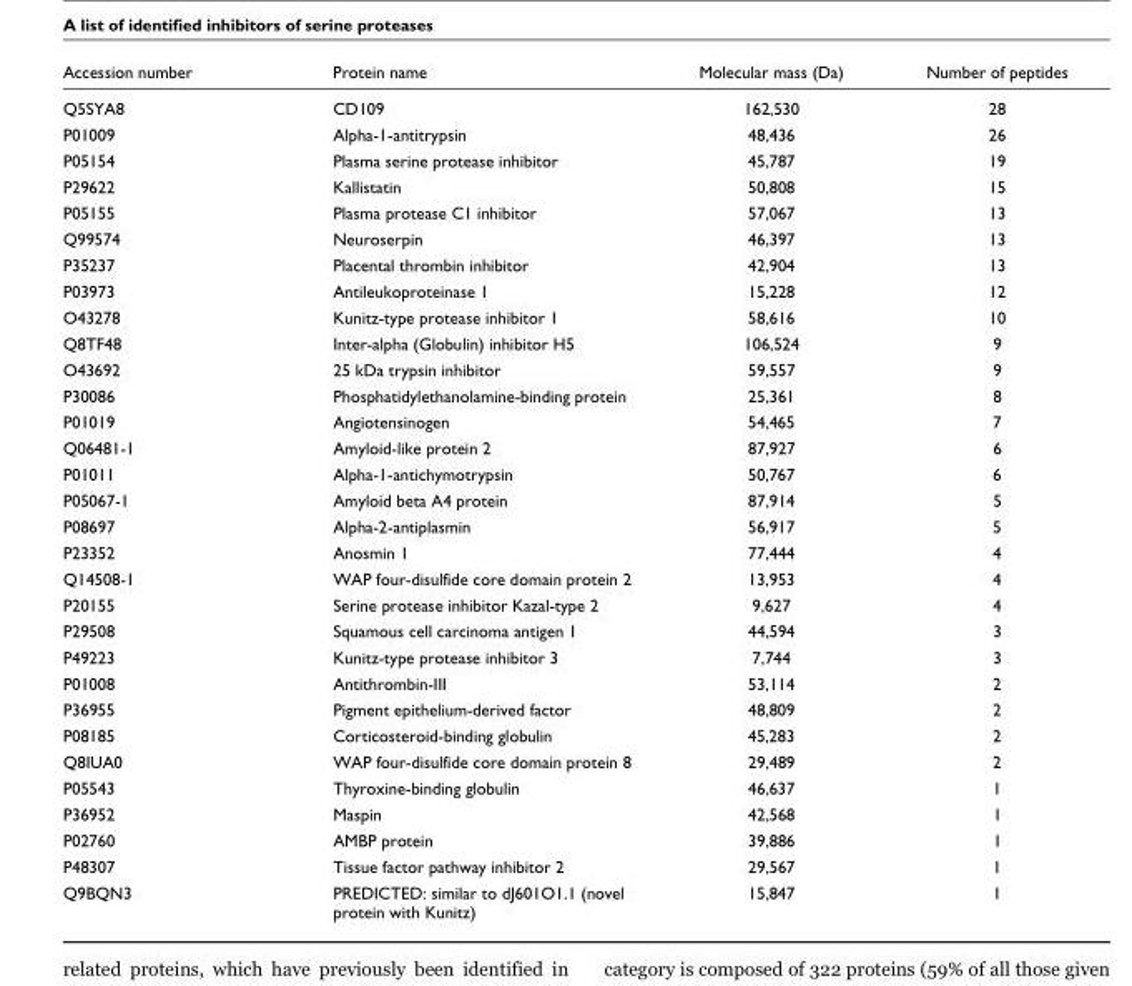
<table><thead><tr><td>Accession number</td><td>Protein name</td><td>Molecular mass (Da)</td><td>Number of peptides</td></tr></thead><tbody><tr><td>Q5SYA8</td><td>CD109</td><td>162,530</td><td>28</td></tr><tr><td>P01009</td><td>Alpha-1-antitrypsin</td><td>48,436</td><td>26</td></tr><tr><td>P05154</td><td>Plasma serine protease inhibitor</td><td>45,787</td><td>19</td></tr><tr><td>P29622</td><td>Kallistatin</td><td>50,808</td><td>15</td></tr><tr><td>P05155</td><td>Plasma protease C1 inhibitor</td><td>57,067</td><td>13</td></tr><tr><td>Q99574</td><td>Neuroserpin</td><td>46,397</td><td>13</td></tr><tr><td>P35237</td><td>Placental thrombin inhibitor</td><td>42,904</td><td>13</td></tr><tr><td>P03973</td><td>Antileukoproteinase 1</td><td>15,228</td><td>12</td></tr><tr><td>O43278</td><td>Kunitz-type protease inhibitor 1</td><td>58,616</td><td>10</td></tr><tr><td>Q8TF48</td><td>Inter-alpha (Globulin) inhibitor H5</td><td>106,524</td><td>9</td></tr><tr><td>O43692</td><td>25 kDa trypsin inhibitor</td><td>59,557</td><td>9</td></tr><tr><td>P30086</td><td>Phosphatidylethanolamine-binding protein</td><td>25,361</td><td>8</td></tr><tr><td>P01019</td><td>Angiotensinogen</td><td>54,465</td><td>7</td></tr><tr><td>Q06481-1</td><td>Amyloid-like protein 2</td><td>87,927</td><td>6</td></tr><tr><td>P01011</td><td>Alpha-1-antichymotrypsin</td><td>50,767</td><td>6</td></tr><tr><td>P05067-1</td><td>Amyloid beta A4 protein</td><td>87,914</td><td>5</td></tr><tr><td>P08697</td><td>Alpha-2-antiplasmin</td><td>56,917</td><td>5</td></tr><tr><td>P23352</td><td>Anosmin 1</td><td>77,444</td><td>4</td></tr><tr><td>Q14508-1</td><td>WAP four-disulfide core domain protein 2</td><td>13,953</td><td>4</td></tr><tr><td>P20155</td><td>Serine protease inhibitor Kazal-type 2</td><td>9,627</td><td>4</td></tr><tr><td>P29508</td><td>Squamous cell carcinoma antigen 1</td><td>44,594</td><td>3</td></tr><tr><td>P49223</td><td>Kunitz-type protease inhibitor 3</td><td>7,744</td><td>3</td></tr><tr><td>P01008</td><td>Antithrombin-III</td><td>53,114</td><td>2</td></tr><tr><td>P36955</td><td>Pigment epithelium-derived factor</td><td>48,809</td><td>2</td></tr><tr><td>P08185</td><td>Corticosteroid-binding globulin</td><td>45,283</td><td>2</td></tr><tr><td>Q8IUA0</td><td>WAP four-disulfide core domain protein 8</td><td>29,489</td><td>2</td></tr><tr><td>P05543</td><td>Thyroxine-binding globulin</td><td>46,637</td><td>1</td></tr><tr><td>P36952</td><td>Maspin</td><td>42,568</td><td>1</td></tr><tr><td>P02760</td><td>AMBP protein</td><td>39,886</td><td>1</td></tr><tr><td>P48307</td><td>Tissue factor pathway inhibitor 2</td><td>29,567</td><td>1</td></tr><tr><td>Q9BQN3</td><td>PREDICTED: similar to dJ601O1.1 (novel protein with Kunitz)</td><td>15,847</td><td>1</td></tr></tbody></table>